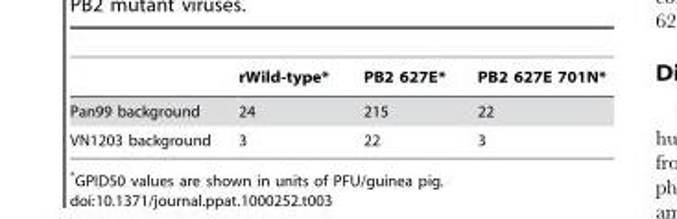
<table><thead><tr><td></td><td>rWild-type*</td><td>PB2 627E*</td><td>PB2 627E 701N*</td></tr></thead><tbody><tr><td>Pan99 background</td><td>24</td><td>215</td><td>22</td></tr><tr><td>VN1203 background</td><td>3</td><td>22</td><td>3</td></tr></tbody></table>